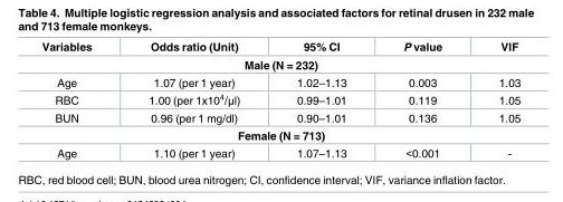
<table><thead><tr><td>Variables</td><td>Odds ratio (Unit)</td><td>95% CI</td><td>P value</td><td>VIF</td></tr></thead><tbody><tr><td colspan="5">Male (N = 232)</td></tr><tr><td>Age</td><td>1.07 (per 1 year)</td><td>1.02–1.13</td><td>0.003</td><td>1.03</td></tr><tr><td>RBC</td><td>1.00 (per 1x10<sup>4</sup>/μl)</td><td>0.99–1.01</td><td>0.119</td><td>1.05</td></tr><tr><td>BUN</td><td>0.96 (per 1 mg/dl)</td><td>0.90–1.01</td><td>0.136</td><td>1.05</td></tr><tr><td colspan="5">Female (N = 713)</td></tr><tr><td>Age</td><td>1.10 (per 1 year)</td><td>1.07–1.13</td><td>&lt;0.001</td><td>-</td></tr></tbody></table>